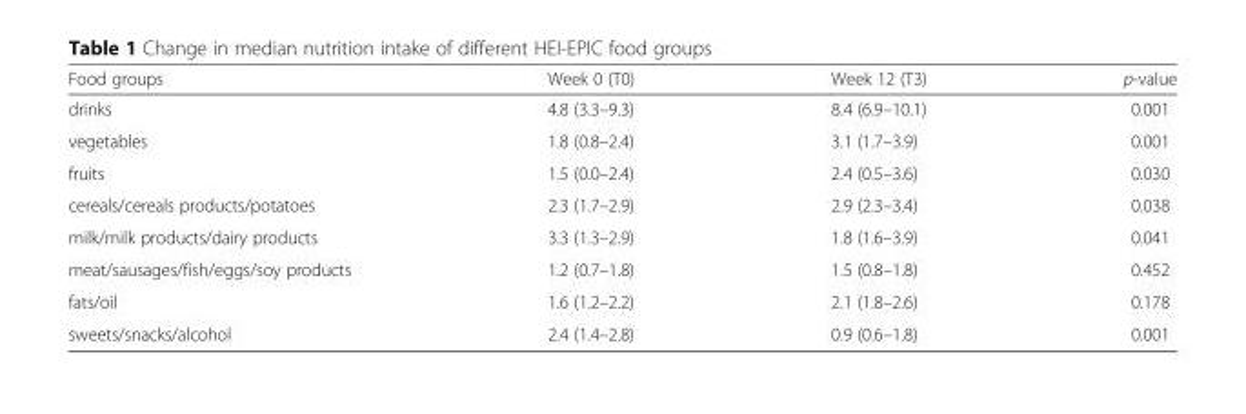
<table><thead><tr><td>Food groups</td><td>Week 0 (T0)</td><td>Week 12 (T3)</td><td>p-value</td></tr></thead><tbody><tr><td>drinks</td><td>4.8 (3.3–9.3)</td><td>8.4 (6.9–10.1)</td><td>0.001</td></tr><tr><td>vegetables</td><td>1.8 (0.8–2.4)</td><td>3.1 (1.7–3.9)</td><td>0.001</td></tr><tr><td>fruits</td><td>1.5 (0.0–2.4)</td><td>2.4 (0.5–3.6)</td><td>0.030</td></tr><tr><td>cereals/cereals products/potatoes</td><td>2.3 (1.7–2.9)</td><td>2.9 (2.3–3.4)</td><td>0.038</td></tr><tr><td>milk/milk products/dairy products</td><td>3.3 (1.3–2.9)</td><td>1.8 (1.6–3.9)</td><td>0.041</td></tr><tr><td>meat/sausages/fish/eggs/soy products</td><td>1.2 (0.7–1.8)</td><td>1.5 (0.8–1.8)</td><td>0.452</td></tr><tr><td>fats/oil</td><td>1.6 (1.2–2.2)</td><td>2.1 (1.8–2.6)</td><td>0.178</td></tr><tr><td>sweets/snacks/alcohol</td><td>2.4 (1.4–2.8)</td><td>0.9 (0.6–1.8)</td><td>0.001</td></tr></tbody></table>